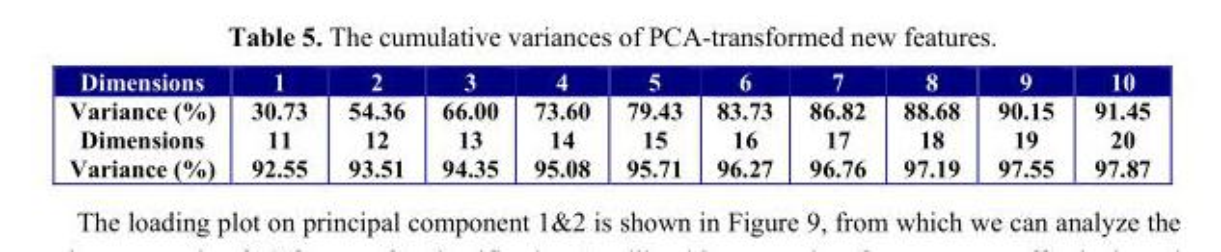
<table><thead><tr><td>Dimensions</td><td>1</td><td>2</td><td>3</td><td>4</td><td>5</td><td>6</td><td>7</td><td>8</td><td>9</td><td>10</td></tr></thead><tbody><tr><td>Variance (%)</td><td>30.73</td><td>54.36</td><td>66.00</td><td>73.60</td><td>79.43</td><td>83.73</td><td>86.82</td><td>88.68</td><td>90.15</td><td>91.45</td></tr><tr><td>Dimensions</td><td>11</td><td>12</td><td>13</td><td>14</td><td>15</td><td>16</td><td>17</td><td>18</td><td>19</td><td>20</td></tr><tr><td>Variance (%)</td><td>92.55</td><td>93.51</td><td>94.35</td><td>95.08</td><td>95.71</td><td>96.27</td><td>96.76</td><td>97.19</td><td>97.55</td><td>97.87</td></tr></tbody></table>